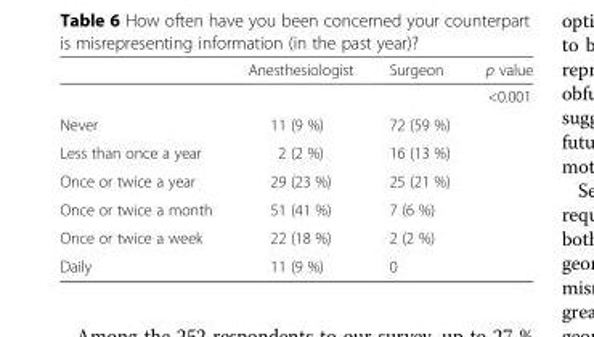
<table><thead><tr><td></td><td>Anesthesiologist</td><td>Surgeon</td><td>p value</td></tr></thead><tbody><tr><td></td><td></td><td></td><td>&lt;0.001</td></tr><tr><td>Never</td><td>11 (9 %)</td><td>72 (59 %)</td><td></td></tr><tr><td>Less than once a year</td><td>2 (2 %)</td><td>16 (13 %)</td><td></td></tr><tr><td>Once or twice a year</td><td>29 (23 %)</td><td>25 (21 %)</td><td></td></tr><tr><td>Once or twice a month</td><td>51 (41 %)</td><td>7 (6 %)</td><td></td></tr><tr><td>Once or twice a week</td><td>22 (18 %)</td><td>2 (2 %)</td><td></td></tr><tr><td>Daily</td><td>11 (9 %)</td><td>0</td><td></td></tr></tbody></table>